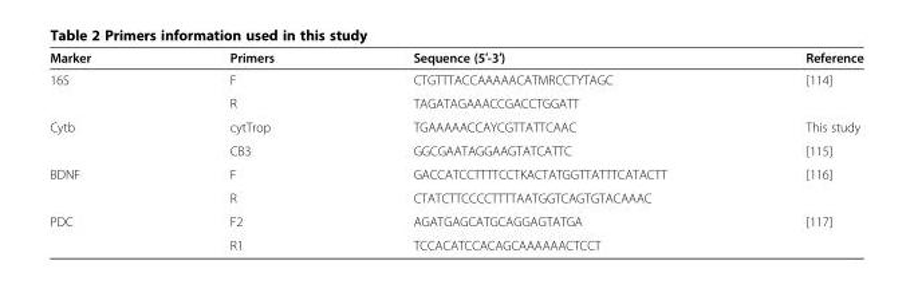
<table><thead><tr><td>Marker</td><td>Primers</td><td>Sequence (5′-3′)</td><td>Reference</td></tr></thead><tbody><tr><td rowspan="2">16S</td><td>F</td><td>CTGTTTACCAAAAACATMRCCTYTAGC</td><td rowspan="2">[114]</td></tr><tr><td>R</td><td>TAGATAGAAACCGACCTGGATT</td></tr><tr><td rowspan="2">Cytb</td><td>cytTrop</td><td>TGAAAAACCAYCGTTATTCAAC</td><td>This study</td></tr><tr><td>CB3</td><td>GGCGAATAGGAAGTATCATTC</td><td>[115]</td></tr><tr><td rowspan="2">BDNF</td><td>F</td><td>GACCATCCTTTTCCTKACTATGGTTATTTCATACTT</td><td rowspan="2">[116]</td></tr><tr><td>R</td><td>CTATCTTCCCCTTTTAATGGTCAGTGTACAAAC</td></tr><tr><td rowspan="2">PDC</td><td>F2</td><td>AGATGAGCATGCAGGAGTATGA</td><td rowspan="2">[117]</td></tr><tr><td>R1</td><td>TCCACATCCACAGCAAAAAACTCCT</td></tr></tbody></table>